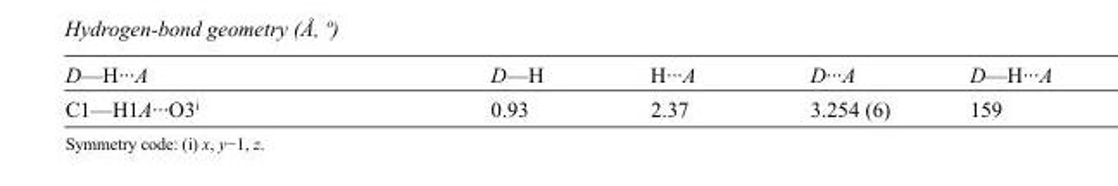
<table><tbody><tr><td>D—H···A</td><td>D—H</td><td>H···A</td><td>D···A</td><td>D—H···A</td></tr><tr><td>C1—H1A···O3<sup>i</sup></td><td>0.93</td><td>2.37</td><td>3.254 (6)</td><td>159</td></tr></tbody></table>